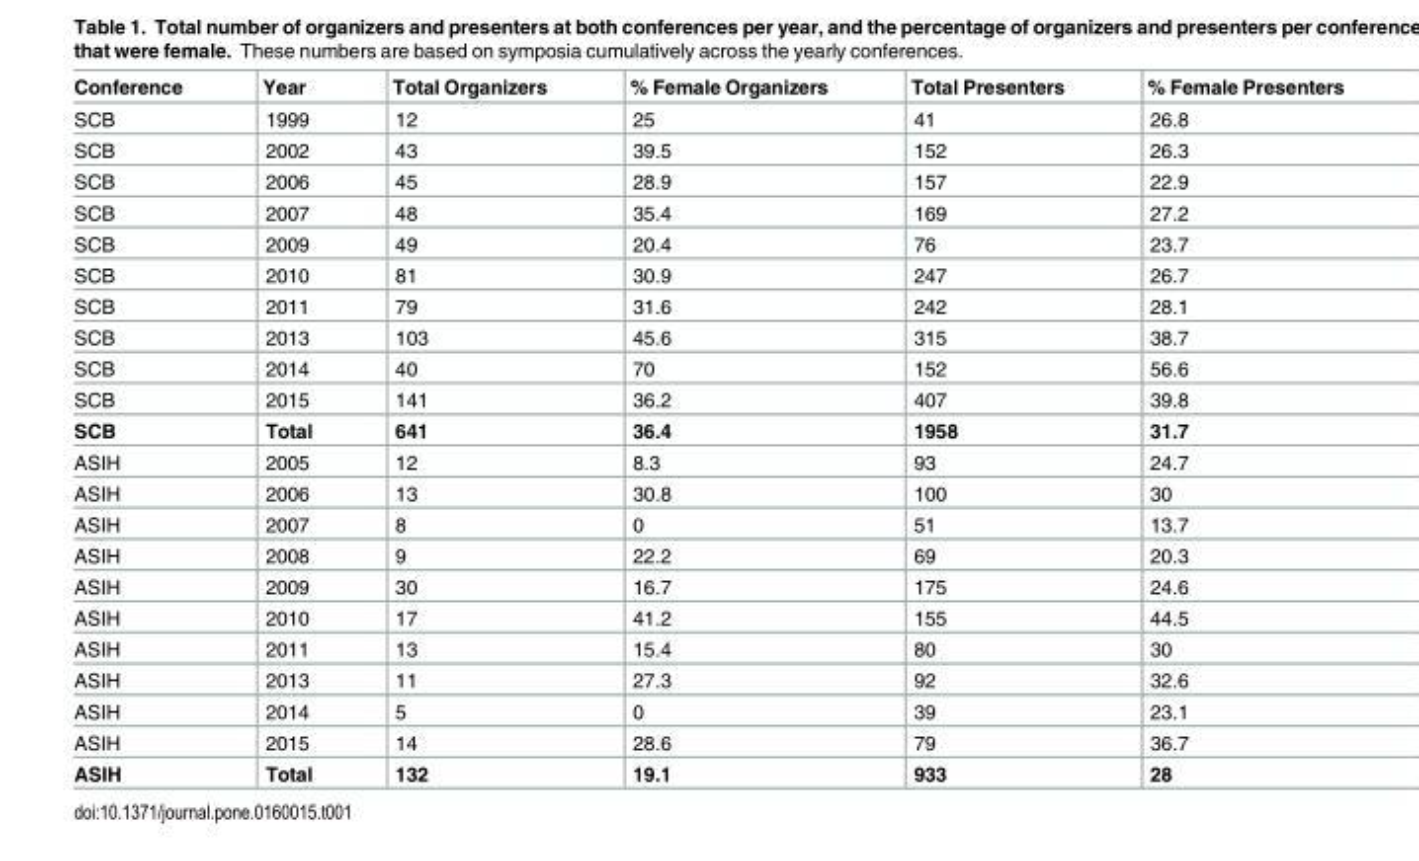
<table><thead><tr><td>Conference</td><td>Year</td><td>Total Organizers</td><td>% Female Organizers</td><td>Total Presenters</td><td>% Female Presenters</td></tr></thead><tbody><tr><td>SCB</td><td>1999</td><td>12</td><td>25</td><td>41</td><td>26.8</td></tr><tr><td>SCB</td><td>2002</td><td>43</td><td>39.5</td><td>152</td><td>26.3</td></tr><tr><td>SCB</td><td>2006</td><td>45</td><td>28.9</td><td>157</td><td>22.9</td></tr><tr><td>SCB</td><td>2007</td><td>48</td><td>35.4</td><td>169</td><td>27.2</td></tr><tr><td>SCB</td><td>2009</td><td>49</td><td>20.4</td><td>76</td><td>23.7</td></tr><tr><td>SCB</td><td>2010</td><td>81</td><td>30.9</td><td>247</td><td>26.7</td></tr><tr><td>SCB</td><td>2011</td><td>79</td><td>31.6</td><td>242</td><td>28.1</td></tr><tr><td>SCB</td><td>2013</td><td>103</td><td>45.6</td><td>315</td><td>38.7</td></tr><tr><td>SCB</td><td>2014</td><td>40</td><td>70</td><td>152</td><td>56.6</td></tr><tr><td>SCB</td><td>2015</td><td>141</td><td>36.2</td><td>407</td><td>39.8</td></tr><tr><td>SCB</td><td>Total</td><td>641</td><td>36.4</td><td>1958</td><td>31.7</td></tr><tr><td>ASIH</td><td>2005</td><td>12</td><td>8.3</td><td>93</td><td>24.7</td></tr><tr><td>ASIH</td><td>2006</td><td>13</td><td>30.8</td><td>100</td><td>30</td></tr><tr><td>ASIH</td><td>2007</td><td>8</td><td>0</td><td>51</td><td>13.7</td></tr><tr><td>ASIH</td><td>2008</td><td>9</td><td>22.2</td><td>69</td><td>20.3</td></tr><tr><td>ASIH</td><td>2009</td><td>30</td><td>16.7</td><td>175</td><td>24.6</td></tr><tr><td>ASIH</td><td>2010</td><td>17</td><td>41.2</td><td>155</td><td>44.5</td></tr><tr><td>ASIH</td><td>2011</td><td>13</td><td>15.4</td><td>80</td><td>30</td></tr><tr><td>ASIH</td><td>2013</td><td>11</td><td>27.3</td><td>92</td><td>32.6</td></tr><tr><td>ASIH</td><td>2014</td><td>5</td><td>0</td><td>39</td><td>23.1</td></tr><tr><td>ASIH</td><td>2015</td><td>14</td><td>28.6</td><td>79</td><td>36.7</td></tr><tr><td>ASIH</td><td>Total</td><td>132</td><td>19.1</td><td>933</td><td>28</td></tr></tbody></table>